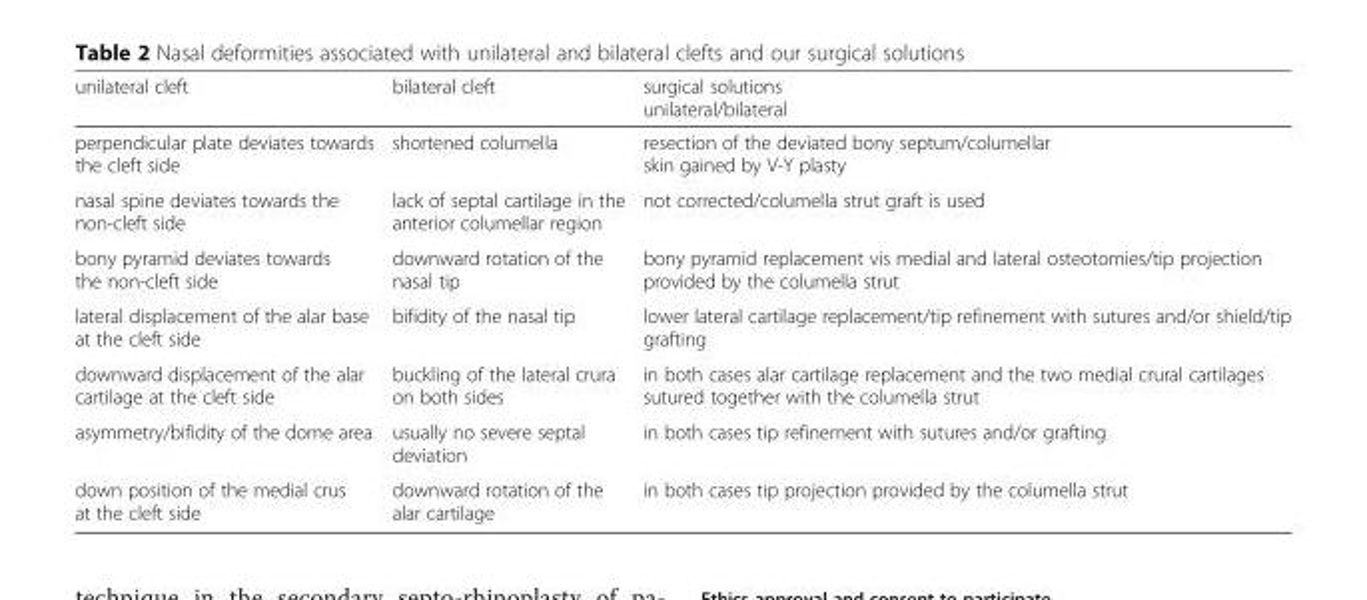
<table><thead><tr><td>unilateral cleft</td><td>bilateral cleft</td><td>surgical solutions unilateral/bilateral</td></tr></thead><tbody><tr><td>perpendicular plate deviates towards the cleft side</td><td>shortened columella</td><td>resection of the deviated bony septum/columellar skin gained by V-Y plasty</td></tr><tr><td>nasal spine deviates towards the non-cleft side</td><td>lack of septal cartilage in the anterior columellar region</td><td>not corrected/columella strut graft is used</td></tr><tr><td>bony pyramid deviates towards the non-cleft side</td><td>downward rotation of the nasal tip</td><td>bony pyramid replacement vis medial and lateral osteotomies/tip projection provided by the columella strut</td></tr><tr><td>lateral displacement of the alar base at the cleft side</td><td>bifidity of the nasal tip</td><td>lower lateral cartilage replacement/tip refinement with sutures and/or shield/tip grafting</td></tr><tr><td>downward displacement of the alar cartilage at the cleft side</td><td>buckling of the lateral crura on both sides</td><td>in both cases alar cartilage replacement and the two medial crural cartilages sutured together with the columella strut</td></tr><tr><td>asymmetry/bifidity of the dome area</td><td>usually no severe septal deviation</td><td>in both cases tip refinement with sutures and/or grafting</td></tr><tr><td>down position of the medial crus at the cleft side</td><td>downward rotation of the alar cartilage</td><td>in both cases tip projection provided by the columella strut</td></tr></tbody></table>